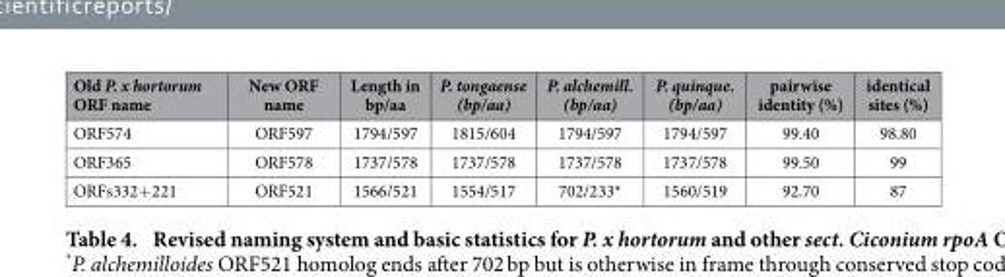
<table><thead><tr><td>Old P. x hortorum ORF name</td><td>New ORF name</td><td>Length in bp/aa</td><td>P. tongaense (bp/aa)</td><td>P. alchemill. (bp/aa)</td><td>P. quinque. (bp/aa)</td><td>pairwise identity (%)</td><td>identical sites (%)</td></tr></thead><tbody><tr><td>ORF574</td><td>ORF597</td><td>1794/597</td><td>1815/604</td><td>1794/597</td><td>1794/597</td><td>99.40</td><td>98.80</td></tr><tr><td>ORF365</td><td>ORF578</td><td>1737/578</td><td>1737/578</td><td>1737/578</td><td>1737/578</td><td>99.50</td><td>99</td></tr><tr><td>ORFs332+ 221</td><td>ORF521</td><td>1566/521</td><td>1554/517</td><td>702/233*</td><td>1560/519</td><td>92.70</td><td>87</td></tr></tbody></table>